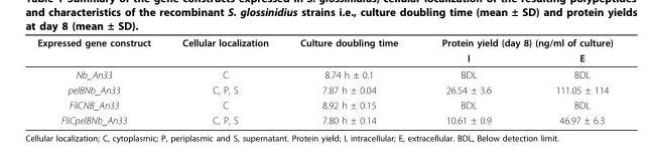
<table><thead><tr><td rowspan="2">Expressed gene construct</td><td rowspan="2">Cellular localization</td><td rowspan="2">Culture doubling time</td><td colspan="2">Protein yield (day 8) (ng/ml of culture)</td></tr><tr><td>I</td><td>E</td></tr></thead><tbody><tr><td>Nb_An33</td><td>C</td><td>8.74 h ± 0.1</td><td>BDL</td><td>BDL</td></tr><tr><td>pelBNb_An33</td><td>C, P, S</td><td>7.87 h ± 0.04</td><td>26.54 ± 3.6</td><td>111.05 ± 114</td></tr><tr><td>FliCNB_An33</td><td>C</td><td>8.92 h ± 0.15</td><td>BDL</td><td>BDL</td></tr><tr><td>FliCpelBNb_An33</td><td>C, P, S</td><td>7.80 h ± 0.14</td><td>10.61 ± 0.9</td><td>46.97 ± 6.3</td></tr></tbody></table>